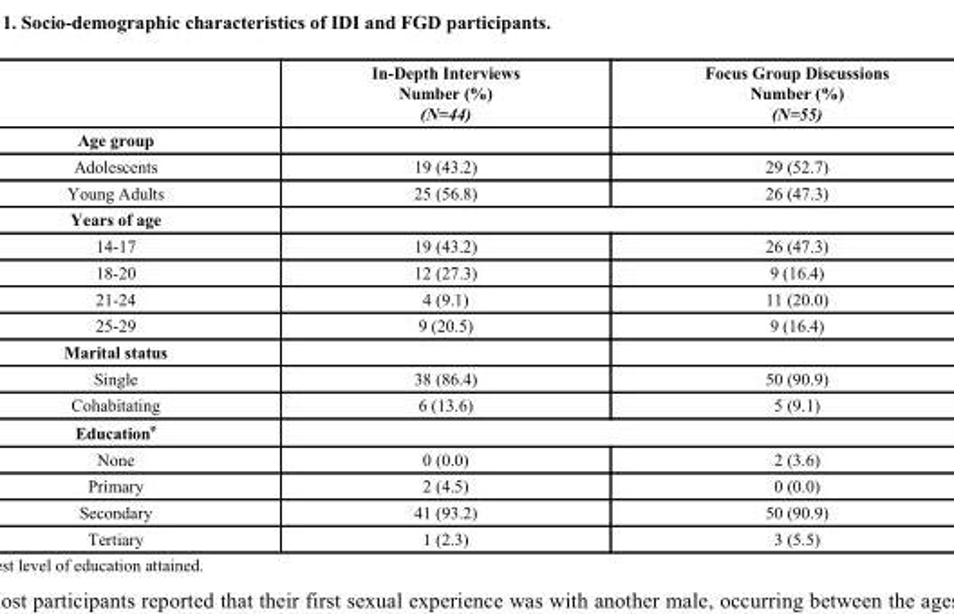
<table><thead><tr><td></td><td>In-Depth Interviews Number (%) (N=44)</td><td>Focus Group Discussions Number (%) (N=55)</td></tr></thead><tbody><tr><td colspan="3">Age group</td></tr><tr><td>Adolescents</td><td>19 (43.2)</td><td>29 (52.7)</td></tr><tr><td>Young Adults</td><td>25 (56.8)</td><td>26 (47.3)</td></tr><tr><td colspan="3">Years of age</td></tr><tr><td>14-17</td><td>19 (43.2)</td><td>26 (47.3)</td></tr><tr><td>18-20</td><td>12 (27.3)</td><td>9 (16.4)</td></tr><tr><td>21-24</td><td>4 (9.1)</td><td>11 (20.0)</td></tr><tr><td>25-29</td><td>9 (20.5)</td><td>9 (16.4)</td></tr><tr><td colspan="3">Marital status</td></tr><tr><td>Single</td><td>38 (86.4)</td><td>50 (90.9)</td></tr><tr><td>Cohabitating</td><td>6 (13.6)</td><td>5 (9.1)</td></tr><tr><td colspan="3">Education <sup>φ</sup></td></tr><tr><td>None</td><td>0 (0.0)</td><td>2 (3.6)</td></tr><tr><td>Primary</td><td>2 (4.5)</td><td>0 (0.0)</td></tr><tr><td>Secondary</td><td>41 (93.2)</td><td>50 (90.9)</td></tr><tr><td>Tertiary</td><td>1 (2.3)</td><td>3 (5.5)</td></tr></tbody></table>